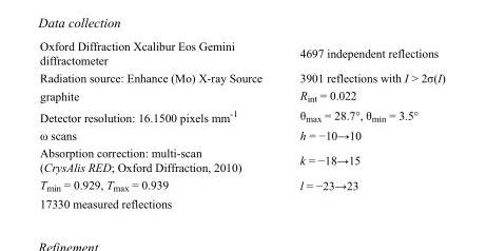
<table><tbody><tr><td>Oxford Diffraction Xcalibur Eos Gemini diffractometer</td><td>4697 independent reflections</td></tr><tr><td>Radiation source: Enhance (Mo) X-ray Source</td><td>3901 reflections with I &gt; 2σ(I)</td></tr><tr><td>graphite</td><td>R<sub>int</sub> = 0.022</td></tr><tr><td>Detector resolution: 16.1500 pixels mm<sup>-1</sup></td><td>θ<sub>max</sub> = 28.7°, θ<sub>min</sub> = 3.5°</td></tr><tr><td>ω scans</td><td>h = −10→10</td></tr><tr><td>Absorption correction: multi-scan (CrysAlis RED; Oxford Diffraction, 2010)</td><td>k = −18→15</td></tr><tr><td>T<sub>min</sub> = 0.929, T<sub>max</sub> = 0.939</td><td>l = −23→23</td></tr><tr><td>17330 measured reflections</td><td></td></tr></tbody></table>